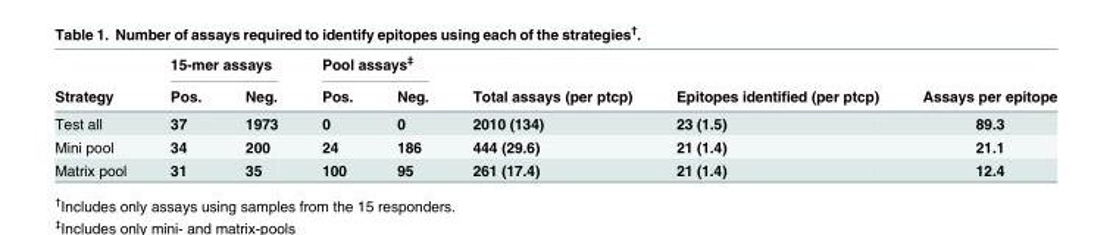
<table><thead><tr><td rowspan="2">Strategy</td><td colspan="2">15-mer assays</td><td colspan="2">Pool assays<sup>‡</sup></td><td rowspan="2">Total assays (per ptcp)</td><td rowspan="2">Epitopes identified (per ptcp)</td><td rowspan="2">Assays per epitope</td></tr><tr><td>Pos.</td><td>Neg.</td><td>Pos.</td><td>Neg.</td></tr></thead><tbody><tr><td>Test all</td><td>37</td><td>1973</td><td>0</td><td>0</td><td>2010 (134)</td><td>23 (1.5)</td><td>89.3</td></tr><tr><td>Mini pool</td><td>34</td><td>200</td><td>24</td><td>186</td><td>444 (29.6)</td><td>21 (1.4)</td><td>21.1</td></tr><tr><td>Matrix pool</td><td>31</td><td>35</td><td>100</td><td>95</td><td>261 (17.4)</td><td>21 (1.4)</td><td>12.4</td></tr></tbody></table>